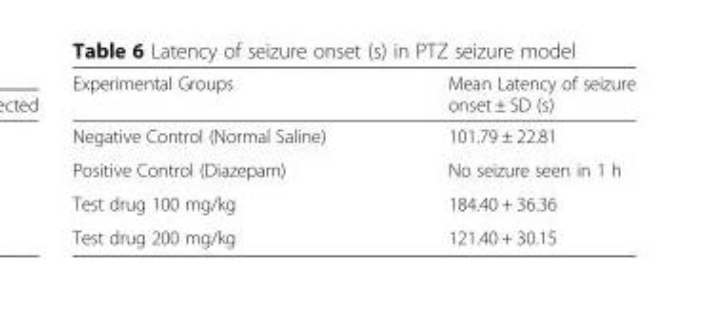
<table><thead><tr><td>Experimental Groups</td><td>Mean Latency of seizure onset ± SD (s)</td></tr></thead><tbody><tr><td>Negative Control (Normal Saline)</td><td>101.79 ± 22.81</td></tr><tr><td>Positive Control (Diazepam)</td><td>No seizure seen in 1 h</td></tr><tr><td>Test drug 100 mg/kg</td><td>184.40 + 36.36</td></tr><tr><td>Test drug 200 mg/kg</td><td>121.40 + 30.15</td></tr></tbody></table>